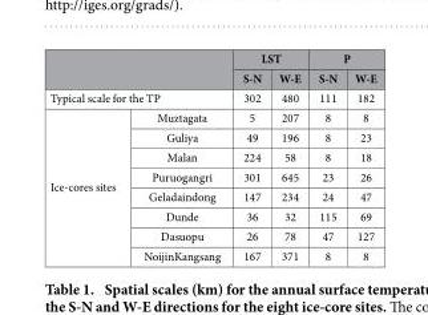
<table><thead><tr><td rowspan="2"></td><td rowspan="2"></td><td colspan="2">LST</td><td colspan="2">P</td></tr><tr><td>S-N</td><td>W-E</td><td>S-N</td><td>W-E</td></tr></thead><tbody><tr><td colspan="2">Typical scale for the TP</td><td>302</td><td>480</td><td>111</td><td>182</td></tr><tr><td rowspan="8">Ice-cores sites</td><td>Muztagata</td><td>5</td><td>207</td><td>8</td><td>8</td></tr><tr><td>Guliya</td><td>49</td><td>196</td><td>8</td><td>23</td></tr><tr><td>Malan</td><td>224</td><td>58</td><td>8</td><td>18</td></tr><tr><td>Puruogangri</td><td>301</td><td>645</td><td>23</td><td>26</td></tr><tr><td>Geladaindong</td><td>147</td><td>234</td><td>24</td><td>47</td></tr><tr><td>Dunde</td><td>36</td><td>32</td><td>115</td><td>69</td></tr><tr><td>Dasuopu</td><td>26</td><td>78</td><td>47</td><td>127</td></tr><tr><td>NoijinKangsang</td><td>167</td><td>371</td><td>8</td><td>8</td></tr></tbody></table>